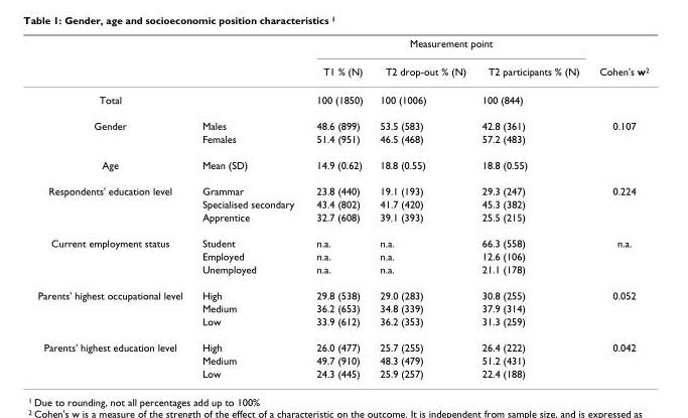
<table><thead><tr><td rowspan="2"></td><td rowspan="2"></td><td colspan="3">Measurement point</td><td rowspan="2">Cohen&#x27;s w<sup>2</sup></td></tr><tr><td>T1 % (N)</td><td>T2 drop-out % (N)</td><td>T2 participants % (N)</td></tr></thead><tbody><tr><td>Total</td><td></td><td>100 (1850)</td><td>100 (1006)</td><td>100 (844)</td><td></td></tr><tr><td rowspan="2">Gender</td><td>Males</td><td>48.6 (899)</td><td>53.5 (583)</td><td>42.8 (361)</td><td>0.107</td></tr><tr><td>Females</td><td>51.4 (951)</td><td>46.5 (468)</td><td>57.2 (483)</td><td></td></tr><tr><td>Age</td><td>Mean (SD)</td><td>14.9 (0.62)</td><td>18.8 (0.55)</td><td>18.8 (0.55)</td><td></td></tr><tr><td rowspan="3">Respondents&#x27; education level</td><td>Grammar</td><td>23.8 (440)</td><td>19.1 (193)</td><td>29.3 (247)</td><td>0.224</td></tr><tr><td>Specialised secondary</td><td>43.4 (802)</td><td>41.7 (420)</td><td>45.3 (382)</td><td></td></tr><tr><td>Apprentice</td><td>32.7 (608)</td><td>39.1 (393)</td><td>25.5 (215)</td><td></td></tr><tr><td rowspan="3">Current employment status</td><td>Student</td><td>n.a.</td><td>n.a.</td><td>66.3 (558)</td><td>n.a.</td></tr><tr><td>Employed</td><td>n.a.</td><td>n.a.</td><td>12.6 (106)</td><td></td></tr><tr><td>Unemployed</td><td>n.a.</td><td>n.a.</td><td>21.1 (178)</td><td></td></tr><tr><td rowspan="3">Parents&#x27; highest occupational level</td><td>High</td><td>29.8 (538)</td><td>29.0 (283)</td><td>30.8 (255)</td><td>0.052</td></tr><tr><td>Medium</td><td>36.2 (653)</td><td>34.8 (339)</td><td>37.9 (314)</td><td></td></tr><tr><td>Low</td><td>33.9 (612)</td><td>36.2 (353)</td><td>31.3 (259)</td><td></td></tr><tr><td rowspan="3">Parents&#x27; highest education level</td><td>High</td><td>26.0 (477)</td><td>25.7 (255)</td><td>26.4 (222)</td><td>0.042</td></tr><tr><td>Medium</td><td>49.7 (910)</td><td>48.3 (479)</td><td>51.2 (431)</td><td></td></tr><tr><td>Low</td><td>24.3 (445)</td><td>25.9 (257)</td><td>22.4 (188)</td><td></td></tr></tbody></table>